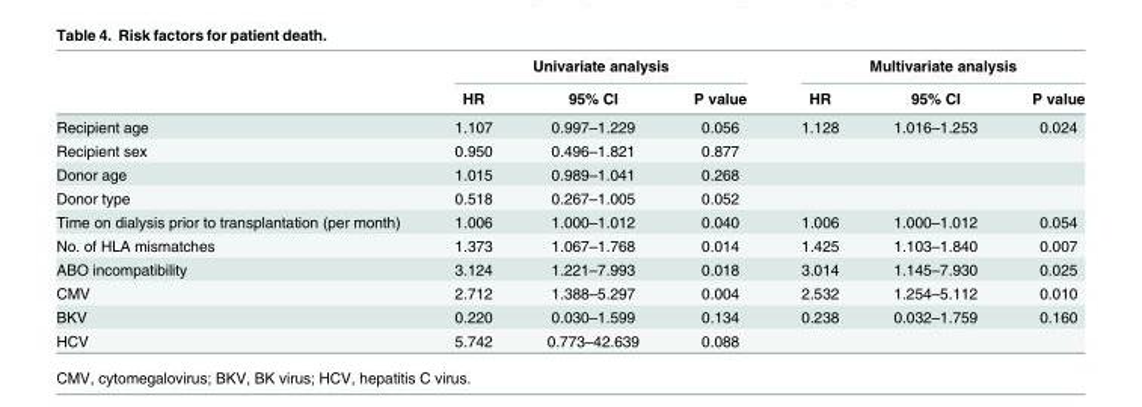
<table><thead><tr><td rowspan="2"></td><td colspan="3">Univariate analysis</td><td colspan="3">Multivariate analysis</td></tr><tr><td>HR</td><td>95% CI</td><td>P value</td><td>HR</td><td>95% CI</td><td>P value</td></tr></thead><tbody><tr><td>Recipient age</td><td>1.107</td><td>0.997–1.229</td><td>0.056</td><td>1.128</td><td>1.016–1.253</td><td>0.024</td></tr><tr><td>Recipient sex</td><td>0.950</td><td>0.496–1.821</td><td>0.877</td><td></td><td></td><td></td></tr><tr><td>Donor age</td><td>1.015</td><td>0.989–1.041</td><td>0.268</td><td></td><td></td><td></td></tr><tr><td>Donor type</td><td>0.518</td><td>0.267–1.005</td><td>0.052</td><td></td><td></td><td></td></tr><tr><td>Time on dialysis prior to transplantation (per month)</td><td>1.006</td><td>1.000–1.012</td><td>0.040</td><td>1.006</td><td>1.000–1.012</td><td>0.054</td></tr><tr><td>No. of HLA mismatches</td><td>1.373</td><td>1.067–1.768</td><td>0.014</td><td>1.425</td><td>1.103–1.840</td><td>0.007</td></tr><tr><td>ABO incompatibility</td><td>3.124</td><td>1.221–7.993</td><td>0.018</td><td>3.014</td><td>1.145–7.930</td><td>0.025</td></tr><tr><td>CMV</td><td>2.712</td><td>1.388–5.297</td><td>0.004</td><td>2.532</td><td>1.254–5.112</td><td>0.010</td></tr><tr><td>BKV</td><td>0.220</td><td>0.030–1.599</td><td>0.134</td><td>0.238</td><td>0.032–1.759</td><td>0.160</td></tr><tr><td>HCV</td><td>5.742</td><td>0.773–42.639</td><td>0.088</td><td></td><td></td><td></td></tr></tbody></table>